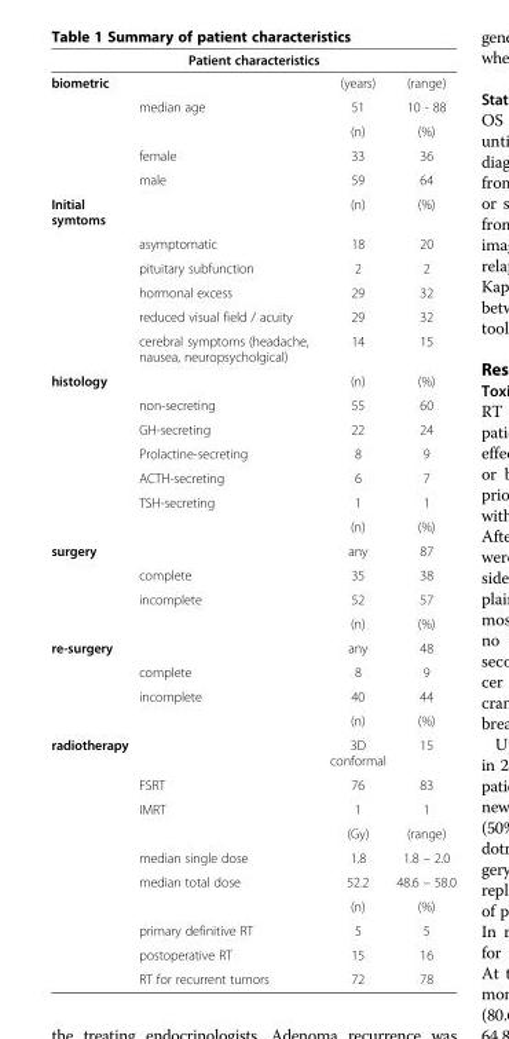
<table><thead><tr><td colspan="4">Patient characteristics</td></tr><tr><td>biometric</td><td></td><td>(years)</td><td>(range)</td></tr></thead><tbody><tr><td></td><td>median age</td><td>51</td><td>10 - 88</td></tr><tr><td></td><td></td><td>(n)</td><td>(%)</td></tr><tr><td></td><td>female</td><td>33</td><td>36</td></tr><tr><td></td><td>male</td><td>59</td><td>64</td></tr><tr><td rowspan="6">Initial symtoms</td><td></td><td>(n)</td><td>(%)</td></tr><tr><td>asymptomatic</td><td>18</td><td>20</td></tr><tr><td>pituitary subfunction</td><td>2</td><td>2</td></tr><tr><td>hormonal excess</td><td>29</td><td>32</td></tr><tr><td>reduced visual field / acuity</td><td>29</td><td>32</td></tr><tr><td>cerebral symptoms (headache, nausea, neuropsycholgical)</td><td>14</td><td>15</td></tr><tr><td rowspan="7">histology</td><td></td><td>(n)</td><td>(%)</td></tr><tr><td>non-secreting</td><td>55</td><td>60</td></tr><tr><td>GH-secreting</td><td>22</td><td>24</td></tr><tr><td>Prolactine-secreting</td><td>8</td><td>9</td></tr><tr><td>ACTH-secreting</td><td>6</td><td>7</td></tr><tr><td>TSH-secreting</td><td>1</td><td>1</td></tr><tr><td></td><td>(n)</td><td>(%)</td></tr><tr><td rowspan="4">surgery</td><td></td><td>any</td><td>87</td></tr><tr><td>complete</td><td>35</td><td>38</td></tr><tr><td>incomplete</td><td>52</td><td>57</td></tr><tr><td></td><td>(n)</td><td>(%)</td></tr><tr><td rowspan="4">re-surgery</td><td></td><td>any</td><td>48</td></tr><tr><td>complete</td><td>8</td><td>9</td></tr><tr><td>incomplete</td><td>40</td><td>44</td></tr><tr><td></td><td>(n)</td><td>(%)</td></tr><tr><td rowspan="10">radiotherapy</td><td></td><td>3D conformal</td><td>15</td></tr><tr><td>FSRT</td><td>76</td><td>83</td></tr><tr><td>IMRT</td><td>1</td><td>1</td></tr><tr><td></td><td>(Gy)</td><td>(range)</td></tr><tr><td>median single dose</td><td>1.8</td><td>1.8 – 2.0</td></tr><tr><td>median total dose</td><td>52.2</td><td>48.6 – 58.0</td></tr><tr><td></td><td>(n)</td><td>(%)</td></tr><tr><td>primary definitive RT</td><td>5</td><td>5</td></tr><tr><td>postoperative RT</td><td>15</td><td>16</td></tr><tr><td>RT for recurrent tumors</td><td>72</td><td>78</td></tr></tbody></table>